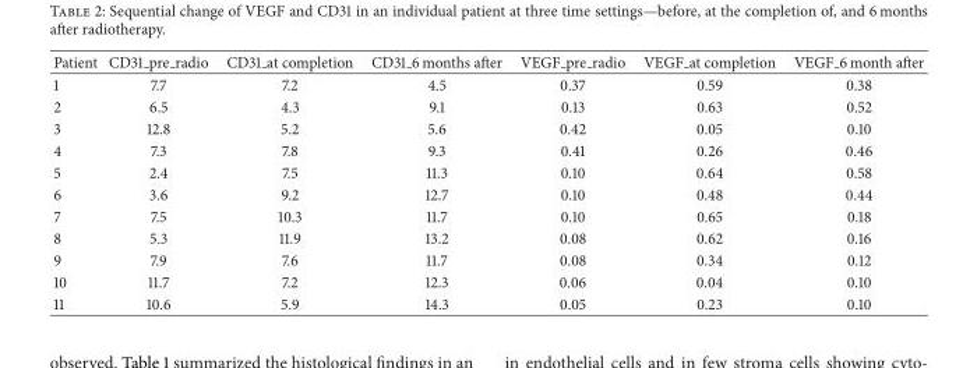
<table><thead><tr><td>Patient</td><td>CD31 <sub>pre</sub> radio</td><td>CD31 at completion</td><td>CD31 6 months after</td><td>VEGF <sub>pre</sub> radio</td><td>VEGF at completion</td><td>VEGF 6 month after</td></tr></thead><tbody><tr><td>1</td><td>7.7</td><td>7.2</td><td>4.5</td><td>0.37</td><td>0.59</td><td>0.38</td></tr><tr><td>2</td><td>6.5</td><td>4.3</td><td>9.1</td><td>0.13</td><td>0.63</td><td>0.52</td></tr><tr><td>3</td><td>12.8</td><td>5.2</td><td>5.6</td><td>0.42</td><td>0.05</td><td>0.10</td></tr><tr><td>4</td><td>7.3</td><td>7.8</td><td>9.3</td><td>0.41</td><td>0.26</td><td>0.46</td></tr><tr><td>5</td><td>2.4</td><td>7.5</td><td>11.3</td><td>0.10</td><td>0.64</td><td>0.58</td></tr><tr><td>6</td><td>3.6</td><td>9.2</td><td>12.7</td><td>0.10</td><td>0.48</td><td>0.44</td></tr><tr><td>7</td><td>7.5</td><td>10.3</td><td>11.7</td><td>0.10</td><td>0.65</td><td>0.18</td></tr><tr><td>8</td><td>5.3</td><td>11.9</td><td>13.2</td><td>0.08</td><td>0.62</td><td>0.16</td></tr><tr><td>9</td><td>7.9</td><td>7.6</td><td>11.7</td><td>0.08</td><td>0.34</td><td>0.12</td></tr><tr><td>10</td><td>11.7</td><td>7.2</td><td>12.3</td><td>0.06</td><td>0.04</td><td>0.10</td></tr><tr><td>11</td><td>10.6</td><td>5.9</td><td>14.3</td><td>0.05</td><td>0.23</td><td>0.10</td></tr></tbody></table>